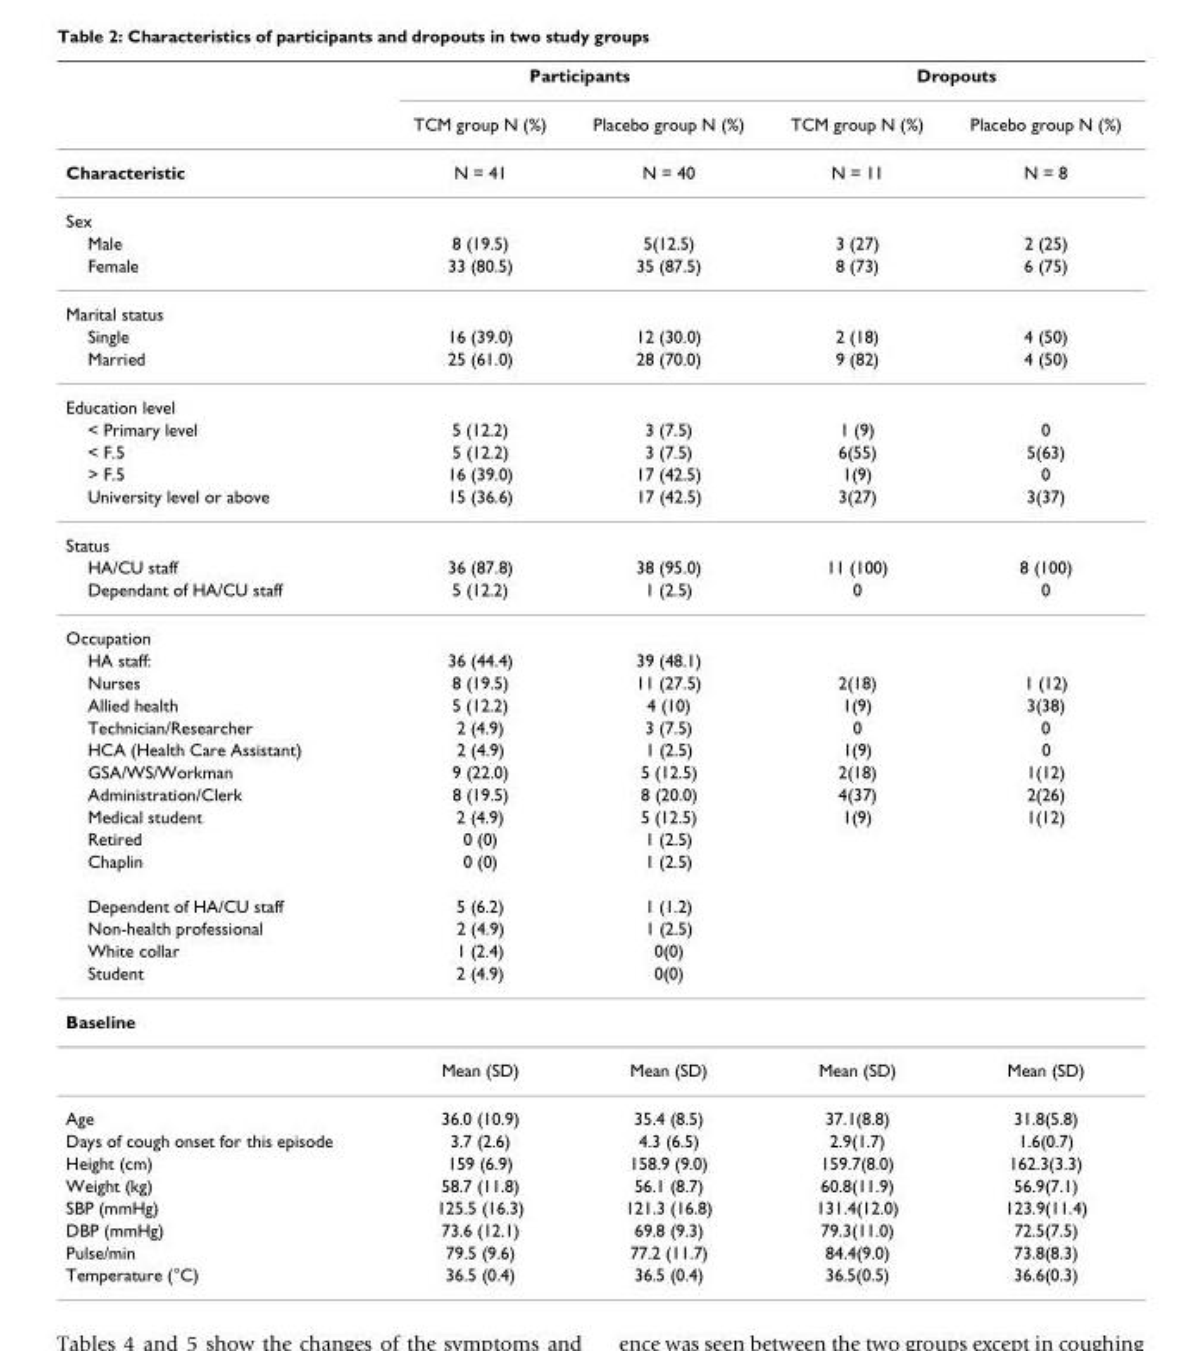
<table><thead><tr><td rowspan="2"></td><td colspan="2">Participants</td><td colspan="2">Dropouts</td></tr><tr><td>TCM group N (%)</td><td>Placebo group N (%)</td><td>TCM group N (%)</td><td>Placebo group N (%)</td></tr></thead><tbody><tr><td>Characteristic</td><td>N = 41</td><td>N = 40</td><td>N = 11</td><td>N = 8</td></tr><tr><td colspan="5">Sex</td></tr><tr><td>Male</td><td>8 (19.5)</td><td>5(12.5)</td><td>3 (27)</td><td>2 (25)</td></tr><tr><td>Female</td><td>33 (80.5)</td><td>35 (87.5)</td><td>8 (73)</td><td>6 (75)</td></tr><tr><td colspan="5">Marital status</td></tr><tr><td>Single</td><td>16 (39.0)</td><td>12 (30.0)</td><td>2 (18)</td><td>4 (50)</td></tr><tr><td>Married</td><td>25 (61.0)</td><td>28 (70.0)</td><td>9 (82)</td><td>4 (50)</td></tr><tr><td colspan="5">Education level</td></tr><tr><td>&lt; Primary level</td><td>5 (12.2)</td><td>3 (7.5)</td><td>1 (9)</td><td>0</td></tr><tr><td>&lt; F.5</td><td>5 (12.2)</td><td>3 (7.5)</td><td>6(55)</td><td>5(63)</td></tr><tr><td>&gt; F.5</td><td>16 (39.0)</td><td>17 (42.5)</td><td>1(9)</td><td>0</td></tr><tr><td>University level or above</td><td>15 (36.6)</td><td>17 (42.5)</td><td>3(27)</td><td>3(37)</td></tr><tr><td colspan="5">Status</td></tr><tr><td>HA/CU staff</td><td>36 (87.8)</td><td>38 (95.0)</td><td>11 (100)</td><td>8 (100)</td></tr><tr><td>Dependant of HA/CU staff</td><td>5 (12.2)</td><td>1 (2.5)</td><td>0</td><td>0</td></tr><tr><td colspan="5">Occupation</td></tr><tr><td>HA staff:</td><td>36 (44.4)</td><td>39 (48.1)</td><td></td><td></td></tr><tr><td>Nurses</td><td>8 (19.5)</td><td>11 (27.5)</td><td>2(18)</td><td>1 (12)</td></tr><tr><td>Allied health</td><td>5 (12.2)</td><td>4 (10)</td><td>1(9)</td><td>3(38)</td></tr><tr><td>Technician/Researcher</td><td>2 (4.9)</td><td>3 (7.5)</td><td>0</td><td>0</td></tr><tr><td>HCA (Health Care Assistant)</td><td>2 (4.9)</td><td>1 (2.5)</td><td>1(9)</td><td>0</td></tr><tr><td>GSA/WS/Workman</td><td>9 (22.0)</td><td>5 (12.5)</td><td>2(18)</td><td>1(12)</td></tr><tr><td>Administration/Clerk</td><td>8 (19.5)</td><td>8 (20.0)</td><td>4(37)</td><td>2(26)</td></tr><tr><td>Medical student</td><td>2 (4.9)</td><td>5 (12.5)</td><td>1(9)</td><td>1(12)</td></tr><tr><td>Retired</td><td>0 (0)</td><td>1 (2.5)</td><td></td><td></td></tr><tr><td>Chaplin</td><td>0 (0)</td><td>1 (2.5)</td><td></td><td></td></tr><tr><td>Dependent of HA/CU staff</td><td>5 (6.2)</td><td>1 (1.2)</td><td></td><td></td></tr><tr><td>Non-health professional</td><td>2 (4.9)</td><td>1 (2.5)</td><td></td><td></td></tr><tr><td>White collar</td><td>1 (2.4)</td><td>0(0)</td><td></td><td></td></tr><tr><td>Student</td><td>2 (4.9)</td><td>0(0)</td><td></td><td></td></tr><tr><td colspan="5">Baseline</td></tr><tr><td></td><td>Mean (SD)</td><td>Mean (SD)</td><td>Mean (SD)</td><td>Mean (SD)</td></tr><tr><td>Age</td><td>36.0 (10.9)</td><td>35.4 (8.5)</td><td>37.1(8.8)</td><td>31.8(5.8)</td></tr><tr><td>Days of cough onset for this episode</td><td>3.7 (2.6)</td><td>4.3 (6.5)</td><td>2.9(1.7)</td><td>1.6(0.7)</td></tr><tr><td>Height (cm)</td><td>159 (6.9)</td><td>158.9 (9.0)</td><td>159.7(8.0)</td><td>162.3(3.3)</td></tr><tr><td>Weight (kg)</td><td>58.7 (11.8)</td><td>56.1 (8.7)</td><td>60.8(11.9)</td><td>56.9(7.1)</td></tr><tr><td>SBP (mmHg)</td><td>125.5 (16.3)</td><td>121.3 (16.8)</td><td>131.4(12.0)</td><td>123.9(11.4)</td></tr><tr><td>DBP (mmHg)</td><td>73.6 (12.1)</td><td>69.8 (9.3)</td><td>79.3(11.0)</td><td>72.5(7.5)</td></tr><tr><td>Pulse/min</td><td>79.5 (9.6)</td><td>77.2 (11.7)</td><td>84.4(9.0)</td><td>73.8(8.3)</td></tr><tr><td>Temperature (°C)</td><td>36.5 (0.4)</td><td>36.5 (0.4)</td><td>36.5(0.5)</td><td>36.6(0.3)</td></tr></tbody></table>